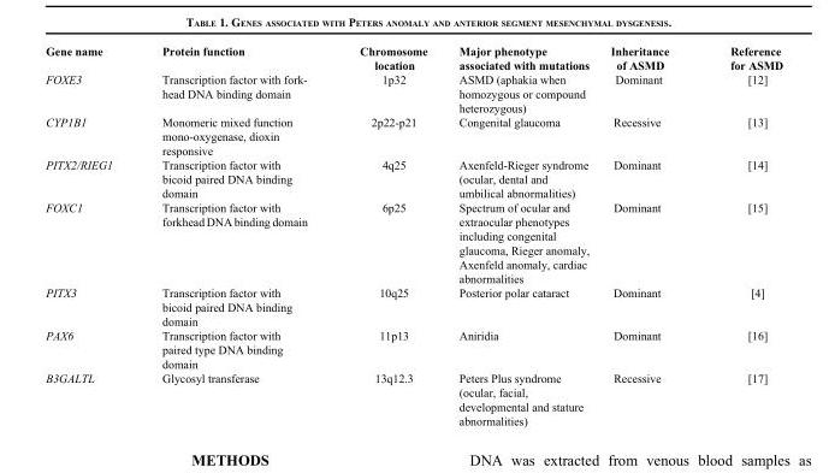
<table><thead><tr><td>Gene name</td><td>Protein function</td><td>Chromosome location</td><td>Major phenotype associated with mutations</td><td>Inheritance of ASMD</td><td>Reference for ASMD</td></tr></thead><tbody><tr><td>FOXE3</td><td>Transcription factor with fork- head DNA binding domain</td><td>1p32</td><td>ASMD (aphakia when homozygous or compound heterozygous)</td><td>Dominant</td><td>[12]</td></tr><tr><td>CYP1B1</td><td>Monomeric mixed function mono-oxygenase, dioxin responsive</td><td>2p22-p21</td><td>Congenital glaucoma</td><td>Recessive</td><td>[13]</td></tr><tr><td>PITX2/RIEG1</td><td>Transcription factor with bicoid paired DNA binding domain</td><td>4q25</td><td>Axenfeld-Rieger syndrome (ocular, dental and umbilical abnormalities)</td><td>Dominant</td><td>[14]</td></tr><tr><td>FOXC1</td><td>Transcription factor with forkhead DNA binding domain</td><td>6p25</td><td>Spectrum of ocular and extraocular phenotypes including congenital glaucoma, Rieger anomaly, Axenfeld anomaly, cardiac abnormalities</td><td>Dominant</td><td>[15]</td></tr><tr><td>PITX3</td><td>Transcription factor with bicoid paired DNA binding domain</td><td>10q25</td><td>Posterior polar cataract</td><td>Dominant</td><td>[4]</td></tr><tr><td>PAX6</td><td>Transcription factor with paired type DNA binding domain</td><td>11p13</td><td>Aniridia</td><td>Dominant</td><td>[16]</td></tr><tr><td>B3GALTL</td><td>Glycosyl transferase</td><td>13q12.3</td><td>Peters Plus syndrome (ocular, facial, developmental and stature abnormalities)</td><td>Recessive</td><td>[17]</td></tr></tbody></table>